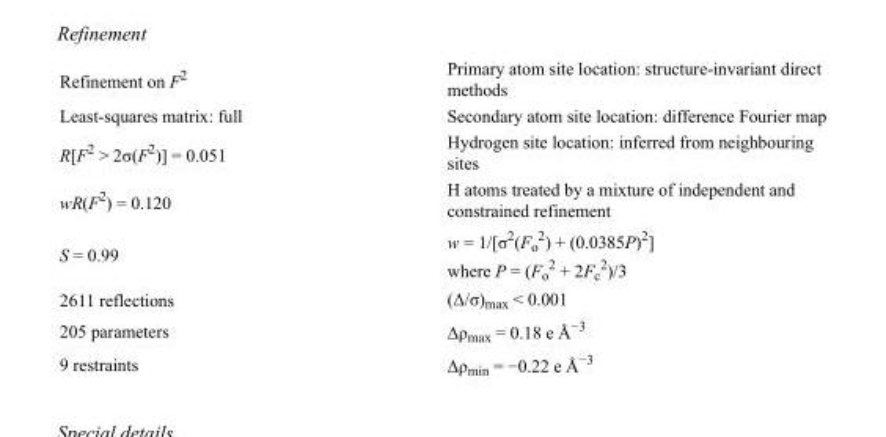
<table><tbody><tr><td>Refinement on F<sup>2</sup></td><td>Primary atom site location: structure-invariant direct methods</td></tr><tr><td>Least-squares matrix: full</td><td>Secondary atom site location: difference Fourier map</td></tr><tr><td>R[F<sup>2</sup> &gt; 2σ(F<sup>2</sup>)] = 0.051</td><td>Hydrogen site location: inferred from neighbouring sites</td></tr><tr><td>wR(F<sup>2</sup>) = 0.120</td><td>H atoms treated by a mixture of independent and constrained refinement</td></tr><tr><td>S = 0.99</td><td>w = 1/[σ<sup>2</sup>(F<sub>o</sub> <sup>2</sup>) + (0.0385P)<sup>2</sup>] where P = (F<sub>o</sub> <sup>2</sup> + 2F<sub>c</sub> <sup>2</sup>)/3</td></tr><tr><td>2611 reflections</td><td>(Δ/σ)<sub>max</sub> &lt; 0.001</td></tr><tr><td>205 parameters</td><td>Δρ<sub>max</sub> = 0.18 e Å<sup>−3</sup></td></tr><tr><td>9 restraints</td><td>Δρ<sub>min</sub> = −0.22 e Å<sup>−3</sup></td></tr></tbody></table>